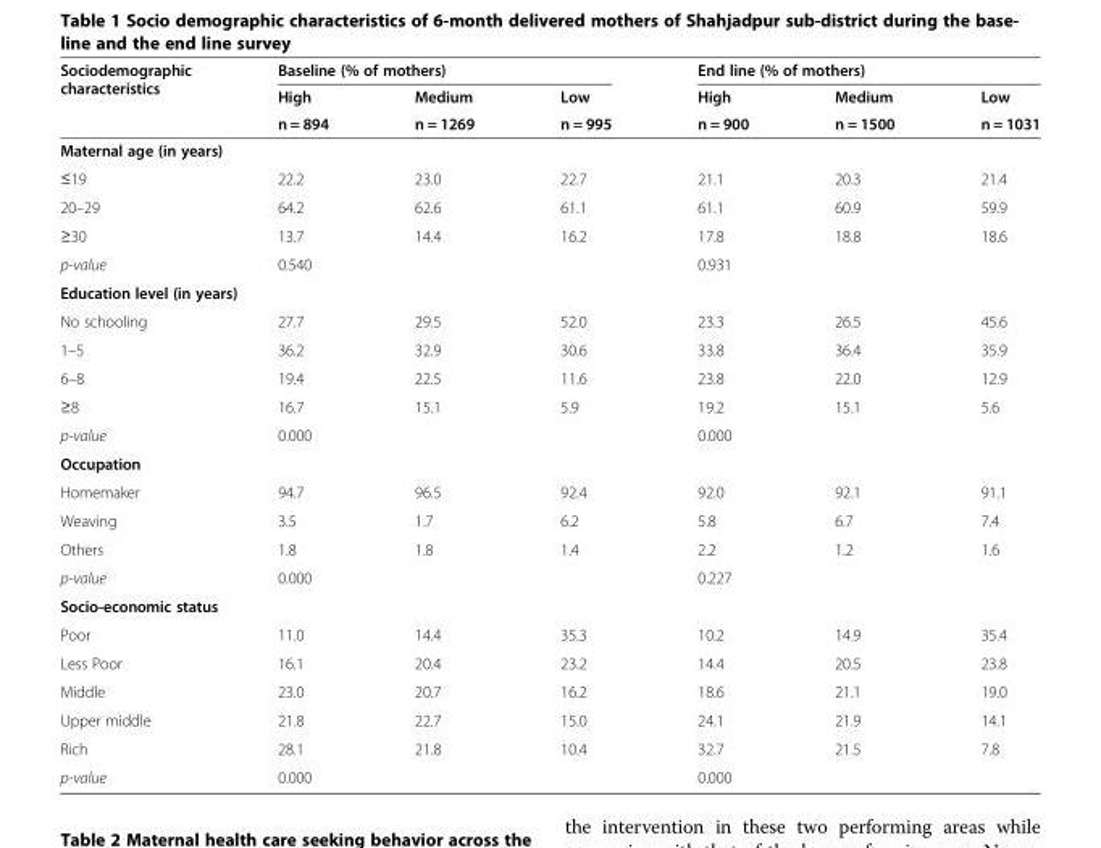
<table><thead><tr><td rowspan="3">Sociodemographic characteristics</td><td colspan="3">Baseline (% of mothers)</td><td colspan="3">End line (% of mothers)</td></tr><tr><td rowspan="2">High n = 894</td><td rowspan="2">Medium n = 1269</td><td rowspan="2">Low n = 995</td><td rowspan="2">High n = 900</td><td rowspan="2">Medium n = 1500</td><td rowspan="2">Low n = 1031</td></tr><tr></tr></thead><tbody><tr><td colspan="7">Maternal age (in years)</td></tr><tr><td>≤19</td><td>22.2</td><td>23.0</td><td>22.7</td><td>21.1</td><td>20.3</td><td>21.4</td></tr><tr><td>20–29</td><td>64.2</td><td>62.6</td><td>61.1</td><td>61.1</td><td>60.9</td><td>59.9</td></tr><tr><td>≥30</td><td>13.7</td><td>14.4</td><td>16.2</td><td>17.8</td><td>18.8</td><td>18.6</td></tr><tr><td>p-value</td><td colspan="3">0.540</td><td colspan="3">0.931</td></tr><tr><td colspan="7">Education level (in years)</td></tr><tr><td>No schooling</td><td>27.7</td><td>29.5</td><td>52.0</td><td>23.3</td><td>26.5</td><td>45.6</td></tr><tr><td>1–5</td><td>36.2</td><td>32.9</td><td>30.6</td><td>33.8</td><td>36.4</td><td>35.9</td></tr><tr><td>6–8</td><td>19.4</td><td>22.5</td><td>11.6</td><td>23.8</td><td>22.0</td><td>12.9</td></tr><tr><td>≥8</td><td>16.7</td><td>15.1</td><td>5.9</td><td>19.2</td><td>15.1</td><td>5.6</td></tr><tr><td>p-value</td><td colspan="3">0.000</td><td colspan="3">0.000</td></tr><tr><td colspan="7">Occupation</td></tr><tr><td>Homemaker</td><td>94.7</td><td>96.5</td><td>92.4</td><td>92.0</td><td>92.1</td><td>91.1</td></tr><tr><td>Weaving</td><td>3.5</td><td>1.7</td><td>6.2</td><td>5.8</td><td>6.7</td><td>7.4</td></tr><tr><td>Others</td><td>1.8</td><td>1.8</td><td>1.4</td><td>2.2</td><td>1.2</td><td>1.6</td></tr><tr><td>p-value</td><td colspan="3">0.000</td><td colspan="3">0.227</td></tr><tr><td colspan="7">Socio-economic status</td></tr><tr><td>Poor</td><td>11.0</td><td>14.4</td><td>35.3</td><td>10.2</td><td>14.9</td><td>35.4</td></tr><tr><td>Less Poor</td><td>16.1</td><td>20.4</td><td>23.2</td><td>14.4</td><td>20.5</td><td>23.8</td></tr><tr><td>Middle</td><td>23.0</td><td>20.7</td><td>16.2</td><td>18.6</td><td>21.1</td><td>19.0</td></tr><tr><td>Upper middle</td><td>21.8</td><td>22.7</td><td>15.0</td><td>24.1</td><td>21.9</td><td>14.1</td></tr><tr><td>Rich</td><td>28.1</td><td>21.8</td><td>10.4</td><td>32.7</td><td>21.5</td><td>7.8</td></tr><tr><td>p-value</td><td colspan="3">0.000</td><td colspan="3">0.000</td></tr></tbody></table>